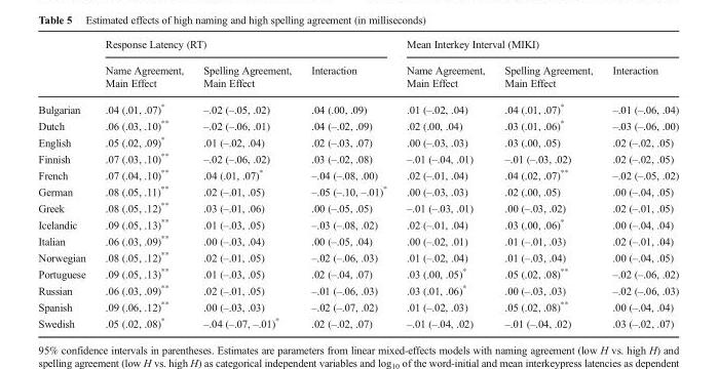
<table><thead><tr><td rowspan="2"></td><td colspan="3">Response Latency (RT)</td><td colspan="3">Mean Interkey Interval (MIKI)</td></tr><tr><td>Name Agreement, Main Effect</td><td>Spelling Agreement, Main Effect</td><td>Interaction</td><td>Name Agreement, Main Effect</td><td>Spelling Agreement, Main Effect</td><td>Interaction</td></tr></thead><tbody><tr><td>Bulgarian</td><td>.04 (.01, .07)*</td><td>–.02 (–.05, .02)</td><td>.04 (.00, .09)</td><td>.01 (–.02, .04)</td><td>.04 (.01, .07)*</td><td>–.01 (–.06, .04)</td></tr><tr><td>Dutch</td><td>.06 (.03, .10)**</td><td>–.02 (–.06, .01)</td><td>.04 (–.02, .09)</td><td>.02 (.00, .04)</td><td>.03 (.01, .06)*</td><td>–.03 (–.06, .00)</td></tr><tr><td>English</td><td>.05 (.02, .09)*</td><td>.01 (–.02, .04)</td><td>.02 (–.03, .07)</td><td>.00 (–.03, .03)</td><td>.03 (.00, .05)</td><td>.02 (–.02, .05)</td></tr><tr><td>Finnish</td><td>.07 (.03, .10)**</td><td>–.02 (–.06, .02)</td><td>.03 (–.02, .08)</td><td>–.01 (–.04, .01)</td><td>–.01 (–.03, .02)</td><td>.02 (–.02, .05)</td></tr><tr><td>French</td><td>.07 (.04, .10)**</td><td>.04 (.01, .07)*</td><td>–.04 (–.08, .00)</td><td>.02 (–.01, .04)</td><td>.04 (.02, .07)**</td><td>–.02 (–.05, .02)</td></tr><tr><td>German</td><td>.08 (.05, .11)**</td><td>.02 (–.01, .05)</td><td>–.05 (–.10, –.01)*</td><td>.00 (–.03, .03)</td><td>.02 (.00, .05)</td><td>.00 (–.04, .05)</td></tr><tr><td>Greek</td><td>.08 (.05, .12)**</td><td>.03 (–.01, .06)</td><td>.00 (–.05, .05)</td><td>–.01 (–.03, .01)</td><td>.00 (–.03, .02)</td><td>.02 (–.01, .05)</td></tr><tr><td>Icelandic</td><td>.09 (.05, .13)**</td><td>.01 (–.03, .05)</td><td>–.03 (–.08, .02)</td><td>.02 (–.01, .04)</td><td>.03 (.00, .06)*</td><td>.00 (–.04, .04)</td></tr><tr><td>Italian</td><td>.06 (.03, .09)**</td><td>.00 (–.03, .04)</td><td>.00 (–.05, .04)</td><td>.00 (–.02, .01)</td><td>.01 (–.01, .03)</td><td>.02 (–.01, .04)</td></tr><tr><td>Norwegian</td><td>.08 (.05, .12)**</td><td>.02 (–.01, .05)</td><td>–.02 (–.06, .03)</td><td>.01 (–.02, .04)</td><td>.01 (–.03, .04)</td><td>.00 (–.04, .05)</td></tr><tr><td>Portuguese</td><td>.09 (.05, .13)**</td><td>.01 (–.03, .05)</td><td>.02 (–.04, .07)</td><td>.03 (.00, .05)*</td><td>.05 (.02, .08)**</td><td>–.02 (–.06, .02)</td></tr><tr><td>Russian</td><td>.06 (.03, .09)**</td><td>.02 (–.01, .05)</td><td>–.01 (–.06, .03)</td><td>.03 (.01, .06)*</td><td>.00 (–.03, .03)</td><td>–.02 (–.06, .03)</td></tr><tr><td>Spanish</td><td>.09 (.06, .12)**</td><td>.00 (–.03, .03)</td><td>–.02 (–.07, .02)</td><td>.01 (–.02, .03)</td><td>.05 (.02, .08)**</td><td>.00 (–.04, .04)</td></tr><tr><td>Swedish</td><td>.05 (.02, .08)*</td><td>–.04 (–.07, –.01)*</td><td>.02 (–.02, .07)</td><td>–.01 (–.04, .02)</td><td>–.01 (–.04, .02)</td><td>.03 (–.02, .07)</td></tr></tbody></table>